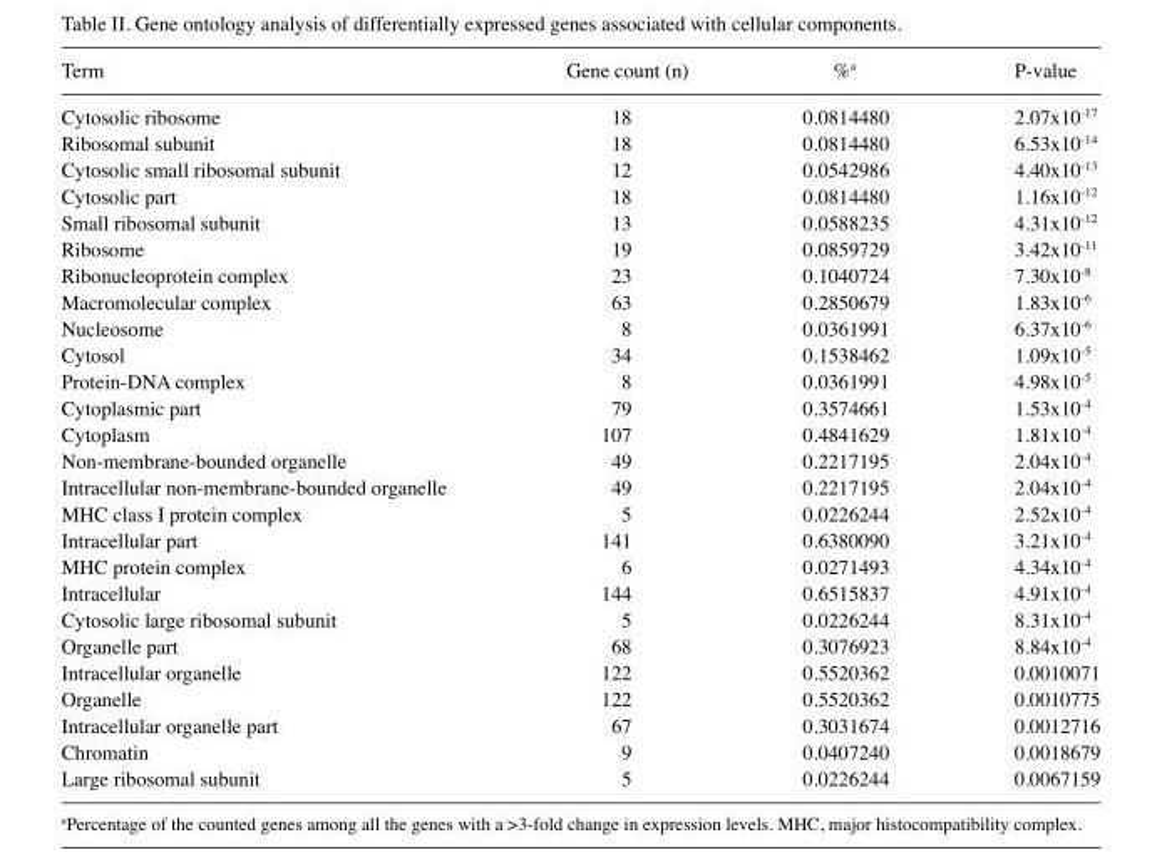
<table><thead><tr><td>Term</td><td>Gene count (n)</td><td>%<sup>a</sup></td><td>P-value</td></tr></thead><tbody><tr><td>Cytosolic ribosome</td><td>18</td><td>0.0814480</td><td>2.07x10-17</td></tr><tr><td>Ribosomal subunit</td><td>18</td><td>0.0814480</td><td>6.53x10-14</td></tr><tr><td>Cytosolic small ribosomal subunit</td><td>12</td><td>0.0542986</td><td>4.40x10-13</td></tr><tr><td>Cytosolic part</td><td>18</td><td>0.0814480</td><td>1.16x10-12</td></tr><tr><td>Small ribosomal subunit</td><td>13</td><td>0.0588235</td><td>4.31x10-12</td></tr><tr><td>Ribosome</td><td>19</td><td>0.0859729</td><td>3.42x10-11</td></tr><tr><td>Ribonucleoprotein complex</td><td>23</td><td>0.1040724</td><td>7.30x10-8</td></tr><tr><td>Macromolecular complex</td><td>63</td><td>0.2850679</td><td>1.83x10-6</td></tr><tr><td>Nucleosome</td><td>8</td><td>0.0361991</td><td>6.37x10-6</td></tr><tr><td>Cytosol</td><td>34</td><td>0.1538462</td><td>1.09x10-5</td></tr><tr><td>Protein-DNA complex</td><td>8</td><td>0.0361991</td><td>4.98x10-5</td></tr><tr><td>Cytoplasmic part</td><td>79</td><td>0.3574661</td><td>1.53x10-4</td></tr><tr><td>Cytoplasm</td><td>107</td><td>0.4841629</td><td>1.81x10-4</td></tr><tr><td>Non-membrane-bounded organelle</td><td>49</td><td>0.2217195</td><td>2.04x10-4</td></tr><tr><td>Intracellular non-membrane-bounded organelle</td><td>49</td><td>0.2217195</td><td>2.04x10-4</td></tr><tr><td>MHC class I protein complex</td><td>5</td><td>0.0226244</td><td>2.52x10-4</td></tr><tr><td>Intracellular part</td><td>141</td><td>0.6380090</td><td>3.21x10-4</td></tr><tr><td>MHC protein complex</td><td>6</td><td>0.0271493</td><td>4.34x10-4</td></tr><tr><td>Intracellular</td><td>144</td><td>0.6515837</td><td>4.91x10-4</td></tr><tr><td>Cytosolic large ribosomal subunit</td><td>5</td><td>0.0226244</td><td>8.31x10-4</td></tr><tr><td>Organelle part</td><td>68</td><td>0.3076923</td><td>8.84x10-4</td></tr><tr><td>Intracellular organelle</td><td>122</td><td>0.5520362</td><td>0.0010071</td></tr><tr><td>Organelle</td><td>122</td><td>0.5520362</td><td>0.0010775</td></tr><tr><td>Intracellular organelle part</td><td>67</td><td>0.3031674</td><td>0.0012716</td></tr><tr><td>Chromatin</td><td>9</td><td>0.0407240</td><td>0.0018679</td></tr><tr><td>Large ribosomal subunit</td><td>5</td><td>0.0226244</td><td>0.0067159</td></tr></tbody></table>